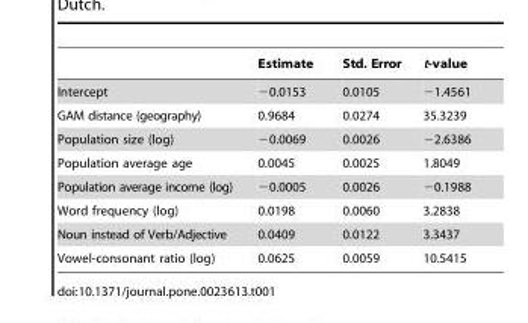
<table><thead><tr><td></td><td>Estimate</td><td>Std. Error</td><td>t-value</td></tr></thead><tbody><tr><td>Intercept</td><td>−0.0153</td><td>0.0105</td><td>−1.4561</td></tr><tr><td>GAM distance (geography)</td><td>0.9684</td><td>0.0274</td><td>35.3239</td></tr><tr><td>Population size (log)</td><td>−0.0069</td><td>0.0026</td><td>−2.6386</td></tr><tr><td>Population average age</td><td>0.0045</td><td>0.0025</td><td>1.8049</td></tr><tr><td>Population average income (log)</td><td>−0.0005</td><td>0.0026</td><td>−0.1988</td></tr><tr><td>Word frequency (log)</td><td>0.0198</td><td>0.0060</td><td>3.2838</td></tr><tr><td>Noun instead of Verb/Adjective</td><td>0.0409</td><td>0.0122</td><td>3.3437</td></tr><tr><td>Vowel-consonant ratio (log)</td><td>0.0625</td><td>0.0059</td><td>10.5415</td></tr></tbody></table>